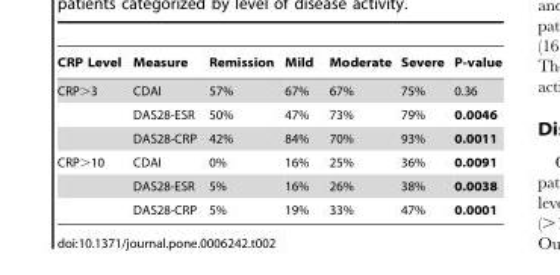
<table><thead><tr><td>CRP Level</td><td>Measure</td><td>Remission</td><td>Mild</td><td>Moderate</td><td>Severe</td><td>P-value</td></tr></thead><tbody><tr><td rowspan="3">CRP&gt;3</td><td>CDAI</td><td>57%</td><td>67%</td><td>67%</td><td>75%</td><td>0.36</td></tr><tr><td>DAS28-ESR</td><td>50%</td><td>47%</td><td>73%</td><td>79%</td><td>0.0046</td></tr><tr><td>DAS28-CRP</td><td>42%</td><td>84%</td><td>70%</td><td>93%</td><td>0.0011</td></tr><tr><td rowspan="3">CRP&gt;10</td><td>CDAI</td><td>0%</td><td>16%</td><td>25%</td><td>36%</td><td>0.0091</td></tr><tr><td>DAS28-ESR</td><td>5%</td><td>16%</td><td>26%</td><td>38%</td><td>0.0038</td></tr><tr><td>DAS28-CRP</td><td>5%</td><td>19%</td><td>33%</td><td>47%</td><td>0.0001</td></tr></tbody></table>